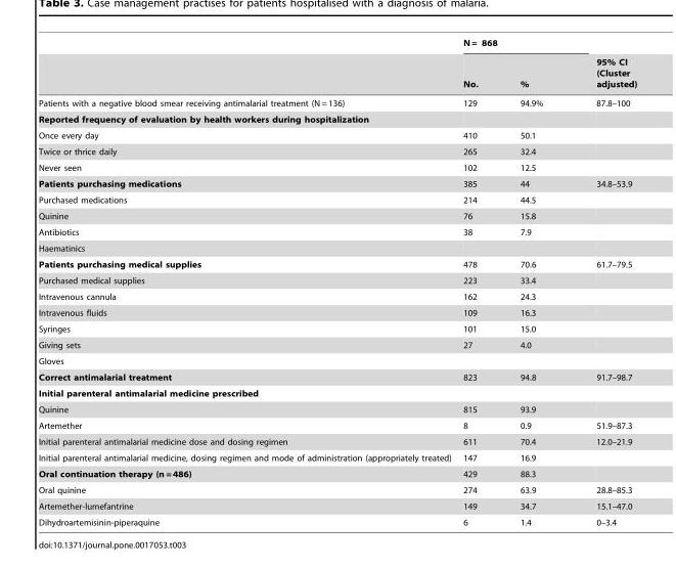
<table><thead><tr><td rowspan="2"></td><td colspan="2">N = 868</td><td rowspan="2">95% CI (Cluster adjusted)</td></tr><tr><td>No.</td><td>%</td></tr></thead><tbody><tr><td>Patients with a negative blood smear receiving antimalarial treatment (N = 136)</td><td>129</td><td>94.9%</td><td>87.8–100</td></tr><tr><td colspan="4">Reported frequency of evaluation by health workers during hospitalization</td></tr><tr><td>Once every day</td><td>410</td><td>50.1</td><td></td></tr><tr><td>Twice or thrice daily</td><td>265</td><td>32.4</td><td></td></tr><tr><td>Never seen</td><td>102</td><td>12.5</td><td></td></tr><tr><td>Patients purchasing medications</td><td>385</td><td>44</td><td>34.8–53.9</td></tr><tr><td>Purchased medications</td><td>214</td><td>44.5</td><td></td></tr><tr><td>Quinine</td><td>76</td><td>15.8</td><td></td></tr><tr><td>Antibiotics</td><td>38</td><td>7.9</td><td></td></tr><tr><td colspan="4">Haematinics</td></tr><tr><td>Patients purchasing medical supplies</td><td>478</td><td>70.6</td><td>61.7–79.5</td></tr><tr><td>Purchased medical supplies</td><td>223</td><td>33.4</td><td></td></tr><tr><td>Intravenous cannula</td><td>162</td><td>24.3</td><td></td></tr><tr><td>Intravenous fluids</td><td>109</td><td>16.3</td><td></td></tr><tr><td>Syringes</td><td>101</td><td>15.0</td><td></td></tr><tr><td>Giving sets</td><td>27</td><td>4.0</td><td></td></tr><tr><td colspan="4">Gloves</td></tr><tr><td>Correct antimalarial treatment</td><td>823</td><td>94.8</td><td>91.7–98.7</td></tr><tr><td colspan="4">Initial parenteral antimalarial medicine prescribed</td></tr><tr><td>Quinine</td><td>815</td><td>93.9</td><td></td></tr><tr><td>Artemether</td><td>8</td><td>0.9</td><td>51.9–87.3</td></tr><tr><td>Initial parenteral antimalarial medicine dose and dosing regimen</td><td>611</td><td>70.4</td><td>12.0–21.9</td></tr><tr><td>Initial parenteral antimalarial medicine, dosing regimen and mode of administration (appropriately treated)</td><td>147</td><td>16.9</td><td></td></tr><tr><td>Oral continuation therapy (n = 486)</td><td>429</td><td>88.3</td><td></td></tr><tr><td>Oral quinine</td><td>274</td><td>63.9</td><td>28.8–85.3</td></tr><tr><td>Artemether-lumefantrine</td><td>149</td><td>34.7</td><td>15.1–47.0</td></tr><tr><td>Dihydroartemisinin-piperaquine</td><td>6</td><td>1.4</td><td>0–3.4</td></tr></tbody></table>